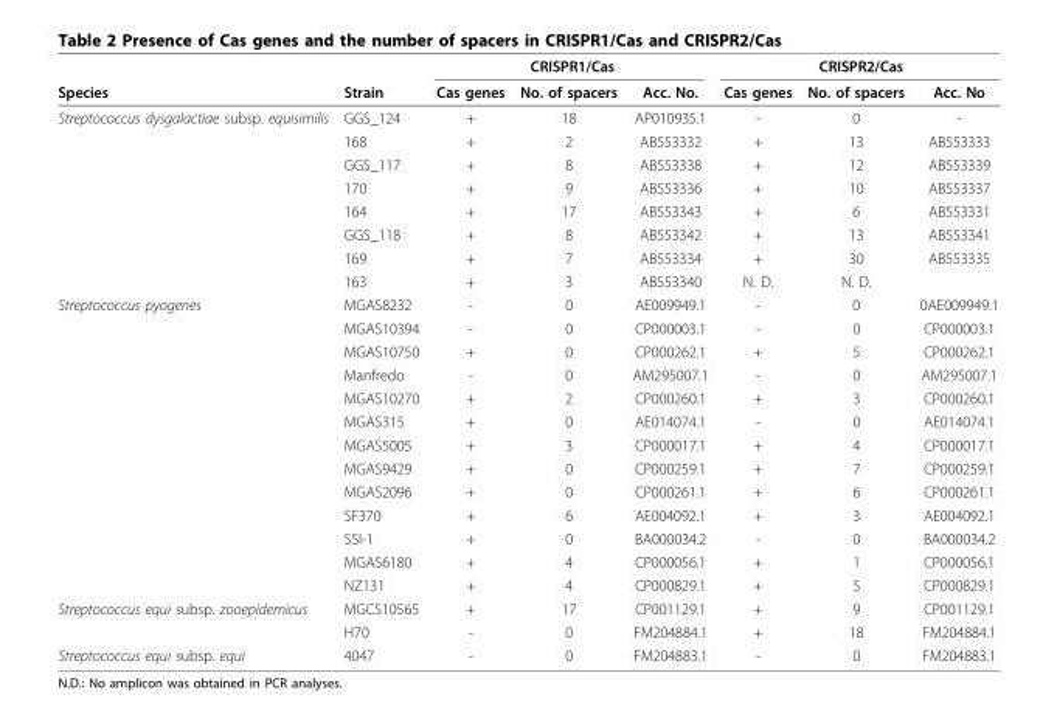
<table><thead><tr><td rowspan="2">Species</td><td rowspan="2">Strain</td><td colspan="3">CRISPR1/Cas</td><td colspan="3">CRISPR2/Cas</td></tr><tr><td>Cas genes</td><td>No. of spacers</td><td>Acc. No.</td><td>Cas genes</td><td>No. of spacers</td><td>Acc. No</td></tr></thead><tbody><tr><td rowspan="8">Streptococcus dysgalactiae subsp. equisimilis</td><td>GGS_124</td><td>+</td><td>18</td><td>AP010935.1</td><td>-</td><td>0</td><td>-</td></tr><tr><td>168</td><td>+</td><td>2</td><td>AB553332</td><td>+</td><td>13</td><td>AB553333</td></tr><tr><td>GGS_117</td><td>+</td><td>8</td><td>AB553338</td><td>+</td><td>12</td><td>AB553339</td></tr><tr><td>170</td><td>+</td><td>9</td><td>AB553336</td><td>+</td><td>10</td><td>AB553337</td></tr><tr><td>164</td><td>+</td><td>17</td><td>AB553343</td><td>+</td><td>6</td><td>AB553331</td></tr><tr><td>GGS_118</td><td>+</td><td>8</td><td>AB553342</td><td>+</td><td>13</td><td>AB553341</td></tr><tr><td>169</td><td>+</td><td>7</td><td>AB553334</td><td>+</td><td>30</td><td>AB553335</td></tr><tr><td>163</td><td>+</td><td>3</td><td>AB553340</td><td>N. D.</td><td>N. D.</td><td></td></tr><tr><td rowspan="13">Streptococcus pyogenes</td><td>MGAS8232</td><td>-</td><td>0</td><td>AE009949.1</td><td>-</td><td>0</td><td>0AE009949.1</td></tr><tr><td>MGAS10394</td><td>-</td><td>0</td><td>CP000003.1</td><td>-</td><td>0</td><td>CP000003.1</td></tr><tr><td>MGAS10750</td><td>+</td><td>0</td><td>CP000262.1</td><td>+</td><td>5</td><td>CP000262.1</td></tr><tr><td>Manfredo</td><td>-</td><td>0</td><td>AM295007.1</td><td>-</td><td>0</td><td>AM295007.1</td></tr><tr><td>MGAS10270</td><td>+</td><td>2</td><td>CP000260.1</td><td>+</td><td>3</td><td>CP000260.1</td></tr><tr><td>MGAS315</td><td>+</td><td>0</td><td>AE014074.1</td><td>-</td><td>0</td><td>AE014074.1</td></tr><tr><td>MGAS5005</td><td>+</td><td>3</td><td>CP000017.1</td><td>+</td><td>4</td><td>CP000017.1</td></tr><tr><td>MGAS9429</td><td>+</td><td>0</td><td>CP000259.1</td><td>+</td><td>7</td><td>CP000259.1</td></tr><tr><td>MGAS2096</td><td>+</td><td>0</td><td>CP000261.1</td><td>+</td><td>6</td><td>CP000261.1</td></tr><tr><td>SF370</td><td>+</td><td>6</td><td>AE004092.1</td><td>+</td><td>3</td><td>AE004092.1</td></tr><tr><td>SSI-1</td><td>+</td><td>0</td><td>BA000034.2</td><td>-</td><td>0</td><td>BA000034.2</td></tr><tr><td>MGAS6180</td><td>+</td><td>4</td><td>CP000056.1</td><td>+</td><td>1</td><td>CP000056.1</td></tr><tr><td>NZ131</td><td>+</td><td>4</td><td>CP000829.1</td><td>+</td><td>5</td><td>CP000829.1</td></tr><tr><td rowspan="2">Streptococcus equi subsp. zooepidemicus</td><td>MGCS10565</td><td>+</td><td>17</td><td>CP001129.1</td><td>+</td><td>9</td><td>CP001129.1</td></tr><tr><td>H70</td><td>-</td><td>0</td><td>FM204884.1</td><td>+</td><td>18</td><td>FM204884.1</td></tr><tr><td>Streptococcus equi subsp. equi</td><td>4047</td><td>-</td><td>0</td><td>FM204883.1</td><td>-</td><td>0</td><td>FM204883.1</td></tr></tbody></table>